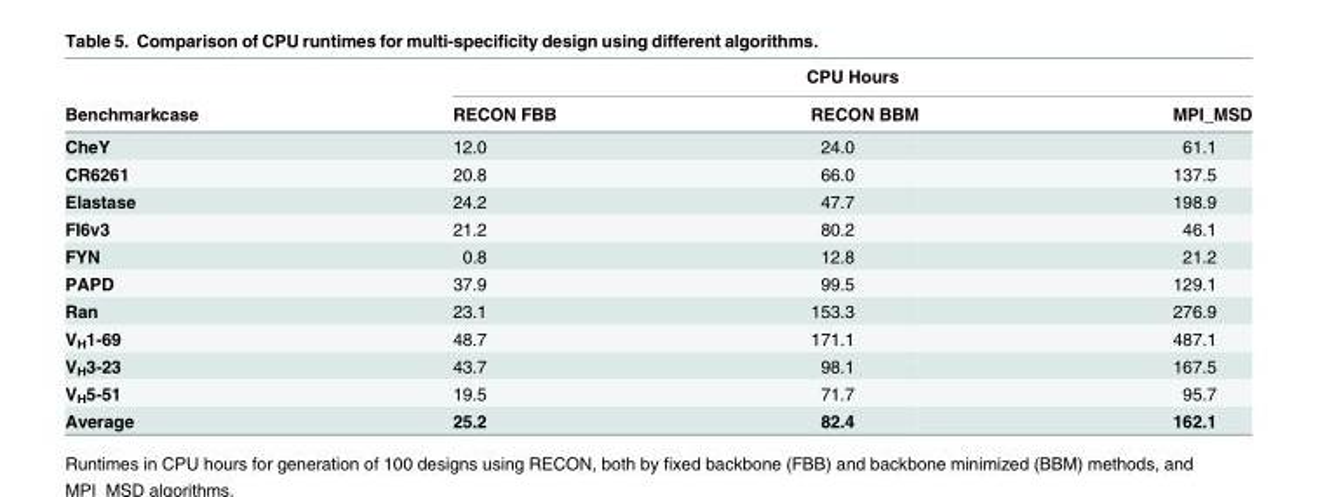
<table><thead><tr><td rowspan="2">Benchmarkcase</td><td colspan="3">CPU Hours</td></tr><tr><td>RECON FBB</td><td>RECON BBM</td><td>MPI_MSD</td></tr></thead><tbody><tr><td>CheY</td><td>12.0</td><td>24.0</td><td>61.1</td></tr><tr><td>CR6261</td><td>20.8</td><td>66.0</td><td>137.5</td></tr><tr><td>Elastase</td><td>24.2</td><td>47.7</td><td>198.9</td></tr><tr><td>FI6v3</td><td>21.2</td><td>80.2</td><td>46.1</td></tr><tr><td>FYN</td><td>0.8</td><td>12.8</td><td>21.2</td></tr><tr><td>PAPD</td><td>37.9</td><td>99.5</td><td>129.1</td></tr><tr><td>Ran</td><td>23.1</td><td>153.3</td><td>276.9</td></tr><tr><td>V<sub>H</sub>1-69</td><td>48.7</td><td>171.1</td><td>487.1</td></tr><tr><td>V<sub>H</sub>3-23</td><td>43.7</td><td>98.1</td><td>167.5</td></tr><tr><td>V<sub>H</sub>5-51</td><td>19.5</td><td>71.7</td><td>95.7</td></tr><tr><td>Average</td><td>25.2</td><td>82.4</td><td>162.1</td></tr></tbody></table>